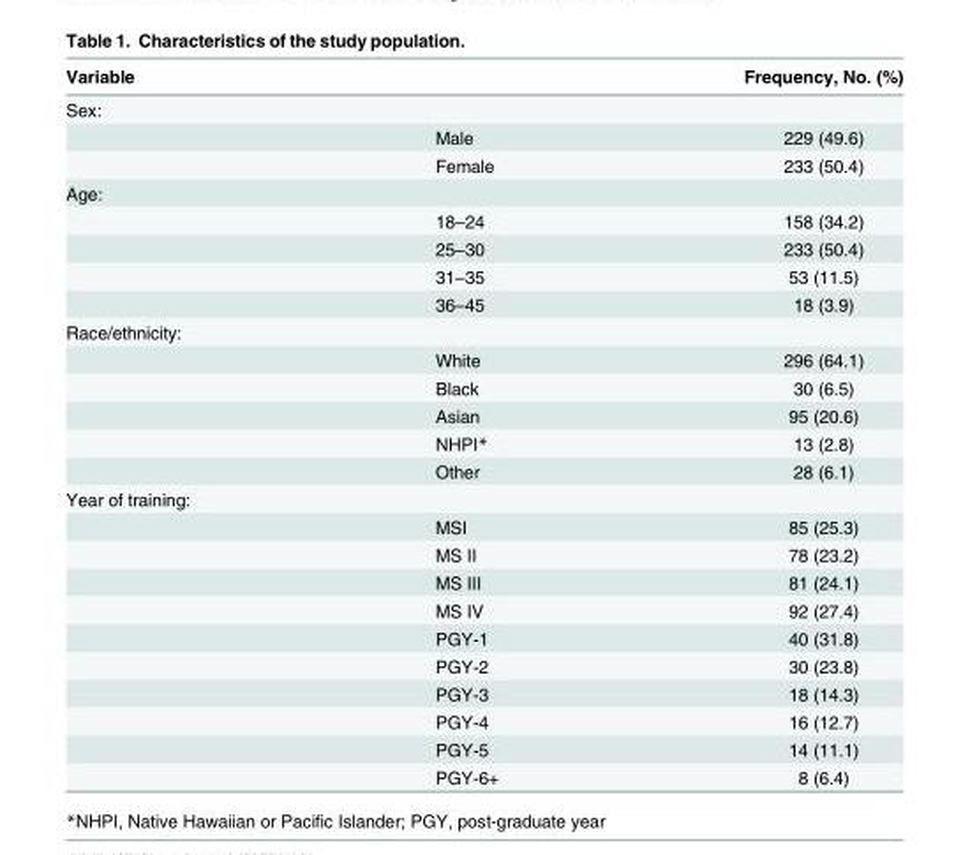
<table><thead><tr><td colspan="2">Variable</td><td rowspan="2">Frequency, No. (%)</td></tr><tr><td>Sex:</td><td></td></tr></thead><tbody><tr><td></td><td>Male</td><td>229 (49.6)</td></tr><tr><td></td><td>Female</td><td>233 (50.4)</td></tr><tr><td colspan="3">Age:</td></tr><tr><td></td><td>18–24</td><td>158 (34.2)</td></tr><tr><td></td><td>25–30</td><td>233 (50.4)</td></tr><tr><td></td><td>31–35</td><td>53 (11.5)</td></tr><tr><td></td><td>36–45</td><td>18 (3.9)</td></tr><tr><td colspan="3">Race/ethnicity:</td></tr><tr><td></td><td>White</td><td>296 (64.1)</td></tr><tr><td></td><td>Black</td><td>30 (6.5)</td></tr><tr><td></td><td>Asian</td><td>95 (20.6)</td></tr><tr><td></td><td>NHPI*</td><td>13 (2.8)</td></tr><tr><td></td><td>Other</td><td>28 (6.1)</td></tr><tr><td colspan="3">Year of training:</td></tr><tr><td></td><td>MSI</td><td>85 (25.3)</td></tr><tr><td></td><td>MS II</td><td>78 (23.2)</td></tr><tr><td></td><td>MS III</td><td>81 (24.1)</td></tr><tr><td></td><td>MS IV</td><td>92 (27.4)</td></tr><tr><td></td><td>PGY-1</td><td>40 (31.8)</td></tr><tr><td></td><td>PGY-2</td><td>30 (23.8)</td></tr><tr><td></td><td>PGY-3</td><td>18 (14.3)</td></tr><tr><td></td><td>PGY-4</td><td>16 (12.7)</td></tr><tr><td></td><td>PGY-5</td><td>14 (11.1)</td></tr><tr><td></td><td>PGY-6+</td><td>8 (6.4)</td></tr></tbody></table>